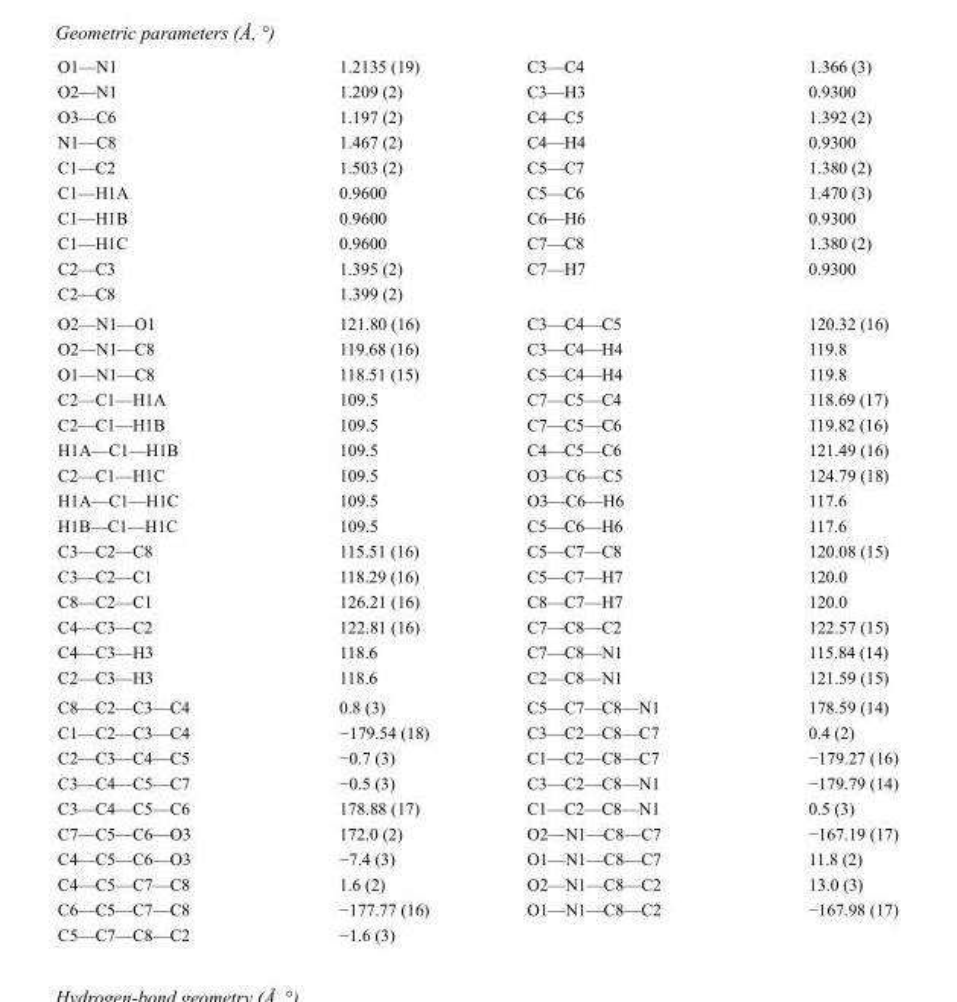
<table><tbody><tr><td>O1—N1</td><td>1.2135 (19)</td><td>C3—C4</td><td>1.366 (3)</td></tr><tr><td>O2—N1</td><td>1.209 (2)</td><td>C3—H3</td><td>0.9300</td></tr><tr><td>O3—C6</td><td>1.197 (2)</td><td>C4—C5</td><td>1.392 (2)</td></tr><tr><td>N1—C8</td><td>1.467 (2)</td><td>C4—H4</td><td>0.9300</td></tr><tr><td>C1—C2</td><td>1.503 (2)</td><td>C5—C7</td><td>1.380 (2)</td></tr><tr><td>C1—H1A</td><td>0.9600</td><td>C5—C6</td><td>1.470 (3)</td></tr><tr><td>C1—H1B</td><td>0.9600</td><td>C6—H6</td><td>0.9300</td></tr><tr><td>C1—H1C</td><td>0.9600</td><td>C7—C8</td><td>1.380 (2)</td></tr><tr><td>C2—C3</td><td>1.395 (2)</td><td>C7—H7</td><td>0.9300</td></tr><tr><td>C2—C8</td><td>1.399 (2)</td><td></td><td></td></tr><tr><td>O2—N1—O1</td><td>121.80 (16)</td><td>C3—C4—C5</td><td>120.32 (16)</td></tr><tr><td>O2—N1—C8</td><td>119.68 (16)</td><td>C3—C4—H4</td><td>119.8</td></tr><tr><td>O1—N1—C8</td><td>118.51 (15)</td><td>C5—C4—H4</td><td>119.8</td></tr><tr><td>C2—C1—H1A</td><td>109.5</td><td>C7—C5—C4</td><td>118.69 (17)</td></tr><tr><td>C2—C1—H1B</td><td>109.5</td><td>C7—C5—C6</td><td>119.82 (16)</td></tr><tr><td>H1A—C1—H1B</td><td>109.5</td><td>C4—C5—C6</td><td>121.49 (16)</td></tr><tr><td>C2—C1—H1C</td><td>109.5</td><td>O3—C6—C5</td><td>124.79 (18)</td></tr><tr><td>H1A—C1—H1C</td><td>109.5</td><td>O3—C6—H6</td><td>117.6</td></tr><tr><td>H1B—C1—H1C</td><td>109.5</td><td>C5—C6—H6</td><td>117.6</td></tr><tr><td>C3—C2—C8</td><td>115.51 (16)</td><td>C5—C7—C8</td><td>120.08 (15)</td></tr><tr><td>C3—C2—C1</td><td>118.29 (16)</td><td>C5—C7—H7</td><td>120.0</td></tr><tr><td>C8—C2—C1</td><td>126.21 (16)</td><td>C8—C7—H7</td><td>120.0</td></tr><tr><td>C4—C3—C2</td><td>122.81 (16)</td><td>C7—C8—C2</td><td>122.57 (15)</td></tr><tr><td>C4—C3—H3</td><td>118.6</td><td>C7—C8—N1</td><td>115.84 (14)</td></tr><tr><td>C2—C3—H3</td><td>118.6</td><td>C2—C8—N1</td><td>121.59 (15)</td></tr><tr><td>C8—C2—C3—C4</td><td>0.8 (3)</td><td>C5—C7—C8—N1</td><td>178.59 (14)</td></tr><tr><td>C1—C2—C3—C4</td><td>−179.54 (18)</td><td>C3—C2—C8—C7</td><td>0.4 (2)</td></tr><tr><td>C2—C3—C4—C5</td><td>−0.7 (3)</td><td>C1—C2—C8—C7</td><td>−179.27 (16)</td></tr><tr><td>C3—C4—C5—C7</td><td>−0.5 (3)</td><td>C3—C2—C8—N1</td><td>−179.79 (14)</td></tr><tr><td>C3—C4—C5—C6</td><td>178.88 (17)</td><td>C1—C2—C8—N1</td><td>0.5 (3)</td></tr><tr><td>C7—C5—C6—O3</td><td>172.0 (2)</td><td>O2—N1—C8—C7</td><td>−167.19 (17)</td></tr><tr><td>C4—C5—C6—O3</td><td>−7.4 (3)</td><td>O1—N1—C8—C7</td><td>11.8 (2)</td></tr><tr><td>C4—C5—C7—C8</td><td>1.6 (2)</td><td>O2—N1—C8—C2</td><td>13.0 (3)</td></tr><tr><td>C6—C5—C7—C8</td><td>−177.77 (16)</td><td>O1—N1—C8—C2</td><td>−167.98 (17)</td></tr><tr><td>C5—C7—C8—C2</td><td>−1.6 (3)</td><td></td><td></td></tr></tbody></table>